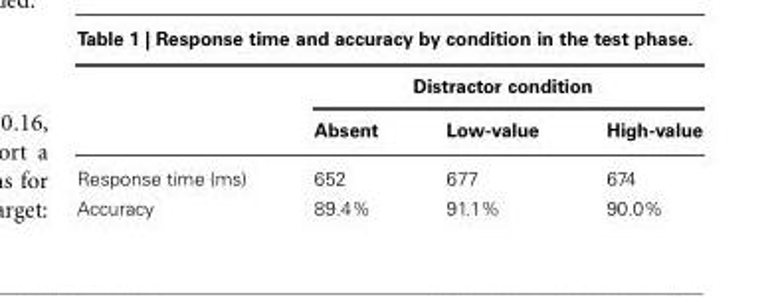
<table><thead><tr><td rowspan="2"></td><td colspan="3">Distractor condition</td></tr><tr><td>Absent</td><td>Low-value</td><td>High-value</td></tr></thead><tbody><tr><td>Response time (ms)</td><td>652</td><td>677</td><td>674</td></tr><tr><td>Accuracy</td><td>89.4%</td><td>91.1%</td><td>90.0%</td></tr></tbody></table>